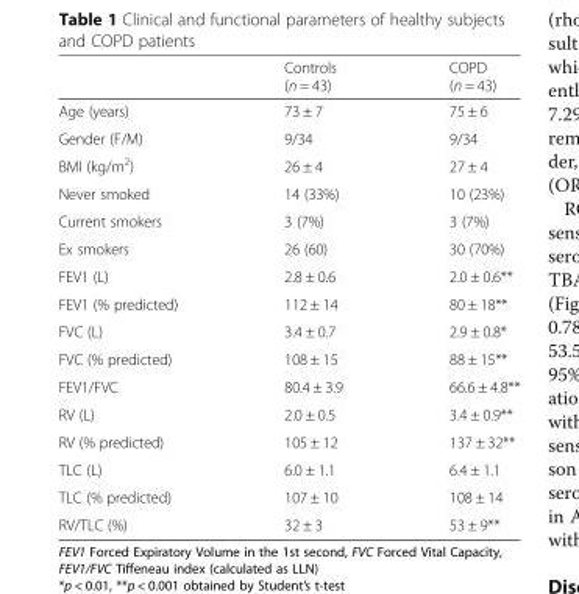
<table><thead><tr><td></td><td>Controls (n = 43)</td><td>COPD (n = 43)</td></tr></thead><tbody><tr><td>Age (years)</td><td>73 ± 7</td><td>75 ± 6</td></tr><tr><td>Gender (F/M)</td><td>9/34</td><td>9/34</td></tr><tr><td>BMI (kg/m<sup>2</sup>)</td><td>26 ± 4</td><td>27 ± 4</td></tr><tr><td>Never smoked</td><td>14 (33%)</td><td>10 (23%)</td></tr><tr><td>Current smokers</td><td>3 (7%)</td><td>3 (7%)</td></tr><tr><td>Ex smokers</td><td>26 (60)</td><td>30 (70%)</td></tr><tr><td>FEV1 (L)</td><td>2.8 ± 0.6</td><td>2.0 ± 0.6**</td></tr><tr><td>FEV1 (% predicted)</td><td>112 ± 14</td><td>80 ± 18**</td></tr><tr><td>FVC (L)</td><td>3.4 ± 0.7</td><td>2.9 ± 0.8*</td></tr><tr><td>FVC (% predicted)</td><td>108 ± 15</td><td>88 ± 15**</td></tr><tr><td>FEV1/FVC</td><td>80.4 ± 3.9</td><td>66.6 ± 4.8**</td></tr><tr><td>RV (L)</td><td>2.0 ± 0.5</td><td>3.4 ± 0.9**</td></tr><tr><td>RV (% predicted)</td><td>105 ± 12</td><td>137 ± 32**</td></tr><tr><td>TLC (L)</td><td>6.0 ± 1.1</td><td>6.4 ± 1.1</td></tr><tr><td>TLC (% predicted)</td><td>107 ± 10</td><td>108 ± 14</td></tr><tr><td>RV/TLC (%)</td><td>32 ± 3</td><td>53 ± 9**</td></tr></tbody></table>